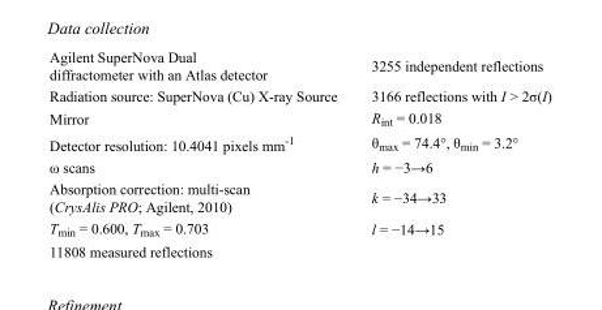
<table><tbody><tr><td>Agilent SuperNova Dual diffractometer with an Atlas detector</td><td>3255 independent reflections</td></tr><tr><td>Radiation source: SuperNova (Cu) X-ray Source</td><td>3166 reflections with I &gt; 2σ(I)</td></tr><tr><td>Mirror</td><td>R<sub>int</sub> = 0.018</td></tr><tr><td>Detector resolution: 10.4041 pixels mm<sup>-1</sup></td><td>θ<sub>max</sub> = 74.4°, θ<sub>min</sub> = 3.2°</td></tr><tr><td>ω scans</td><td>h = −3→6</td></tr><tr><td>Absorption correction: multi-scan (CrysAlis PRO; Agilent, 2010)</td><td>k = −34→33</td></tr><tr><td>T<sub>min</sub> = 0.600, T<sub>max</sub> = 0.703</td><td>l = −14→15</td></tr><tr><td>11808 measured reflections</td><td></td></tr></tbody></table>